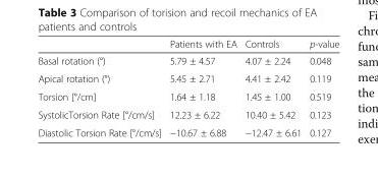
<table><thead><tr><td></td><td>Patients with EA</td><td>Controls</td><td>p-value</td></tr></thead><tbody><tr><td>Basal rotation (°)</td><td>5.79 ± 4.57</td><td>4.07 ± 2.24</td><td>0.048</td></tr><tr><td>Apical rotation (°)</td><td>5.45 ± 2.71</td><td>4.41 ± 2.42</td><td>0.119</td></tr><tr><td>Torsion [°/cm]</td><td>1.64 ± 1.18</td><td>1.45 ± 1.00</td><td>0.519</td></tr><tr><td>SystolicTorsion Rate [°/cm/s]</td><td>12.23 ± 6.22</td><td>10.40 ± 5.42</td><td>0.123</td></tr><tr><td>Diastolic Torsion Rate [°/cm/s]</td><td>−10.67 ± 6.88</td><td>−12.47 ± 6.61</td><td>0.127</td></tr></tbody></table>